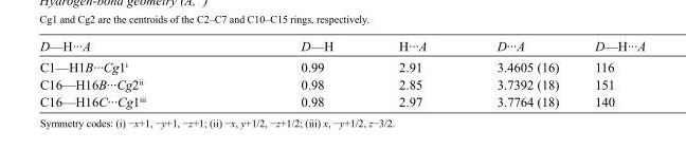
<table><tbody><tr><td>D—H···A</td><td>D—H</td><td>H···A</td><td>D···A</td><td>D—H···A</td></tr><tr><td>C1—H1B···Cg1<sup>i</sup></td><td>0.99</td><td>2.91</td><td>3.4605 (16)</td><td>116</td></tr><tr><td>C16—H16B···Cg2<sup>ii</sup></td><td>0.98</td><td>2.85</td><td>3.7392 (18)</td><td>151</td></tr><tr><td>C16—H16C···Cg1<sup>iii</sup></td><td>0.98</td><td>2.97</td><td>3.7764 (18)</td><td>140</td></tr></tbody></table>